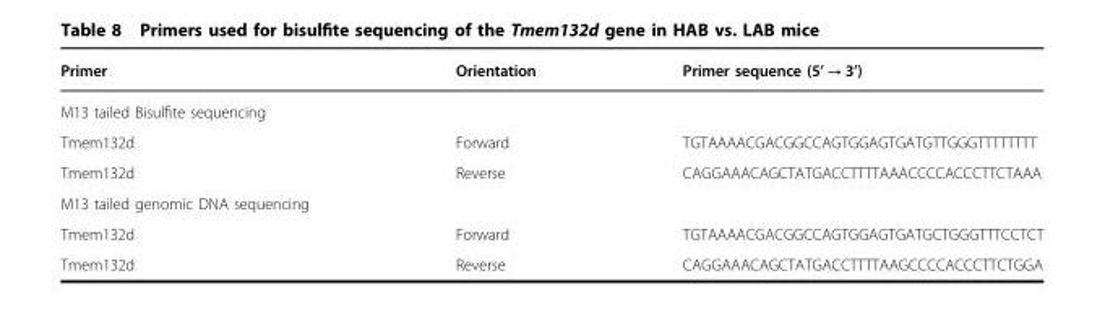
<table><thead><tr><td>Primer</td><td>Orientation</td><td>Primer sequence (5’ → 3’)</td></tr></thead><tbody><tr><td colspan="3">M13 tailed Bisulfite sequencing</td></tr><tr><td>Tmem132d</td><td>Forward</td><td>TGTAAAACGACGGCCAGTGGAGTGATGTTGGGTTTTTTTT</td></tr><tr><td>Tmem132d</td><td>Reverse</td><td>CAGGAAACAGCTATGACCTTTTAAACCCCACCCTTCTAAA</td></tr><tr><td colspan="3">M13 tailed genomic DNA sequencing</td></tr><tr><td>Tmem132d</td><td>Forward</td><td>TGTAAAACGACGGCCAGTGGAGTGATGCTGGGTTTCCTCT</td></tr><tr><td>Tmem132d</td><td>Reverse</td><td>CAGGAAACAGCTATGACCTTTTAAGCCCCACCCTTCTGGA</td></tr></tbody></table>